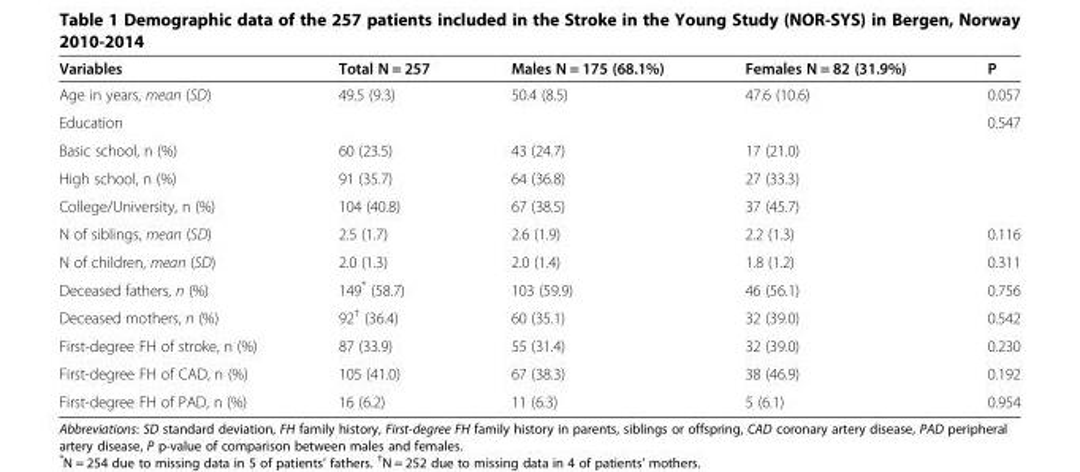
<table><thead><tr><td>Variables</td><td>Total N = 257</td><td>Males N = 175 (68.1%)</td><td>Females N = 82 (31.9%)</td><td>P</td></tr></thead><tbody><tr><td>Age in years, mean (SD)</td><td>49.5 (9.3)</td><td>50.4 (8.5)</td><td>47.6 (10.6)</td><td>0.057</td></tr><tr><td>Education</td><td></td><td></td><td></td><td>0.547</td></tr><tr><td>Basic school, n (%)</td><td>60 (23.5)</td><td>43 (24.7)</td><td>17 (21.0)</td><td></td></tr><tr><td>High school, n (%)</td><td>91 (35.7)</td><td>64 (36.8)</td><td>27 (33.3)</td><td></td></tr><tr><td>College/University, n (%)</td><td>104 (40.8)</td><td>67 (38.5)</td><td>37 (45.7)</td><td></td></tr><tr><td>N of siblings, mean (SD)</td><td>2.5 (1.7)</td><td>2.6 (1.9)</td><td>2.2 (1.3)</td><td>0.116</td></tr><tr><td>N of children, mean (SD)</td><td>2.0 (1.3)</td><td>2.0 (1.4)</td><td>1.8 (1.2)</td><td>0.311</td></tr><tr><td>Deceased fathers, n (%)</td><td>149* (58.7)</td><td>103 (59.9)</td><td>46 (56.1)</td><td>0.756</td></tr><tr><td>Deceased mothers, n (%)</td><td>92<sup>†</sup> (36.4)</td><td>60 (35.1)</td><td>32 (39.0)</td><td>0.542</td></tr><tr><td>First-degree FH of stroke, n (%)</td><td>87 (33.9)</td><td>55 (31.4)</td><td>32 (39.0)</td><td>0.230</td></tr><tr><td>First-degree FH of CAD, n (%)</td><td>105 (41.0)</td><td>67 (38.3)</td><td>38 (46.9)</td><td>0.192</td></tr><tr><td>First-degree FH of PAD, n (%)</td><td>16 (6.2)</td><td>11 (6.3)</td><td>5 (6.1)</td><td>0.954</td></tr></tbody></table>